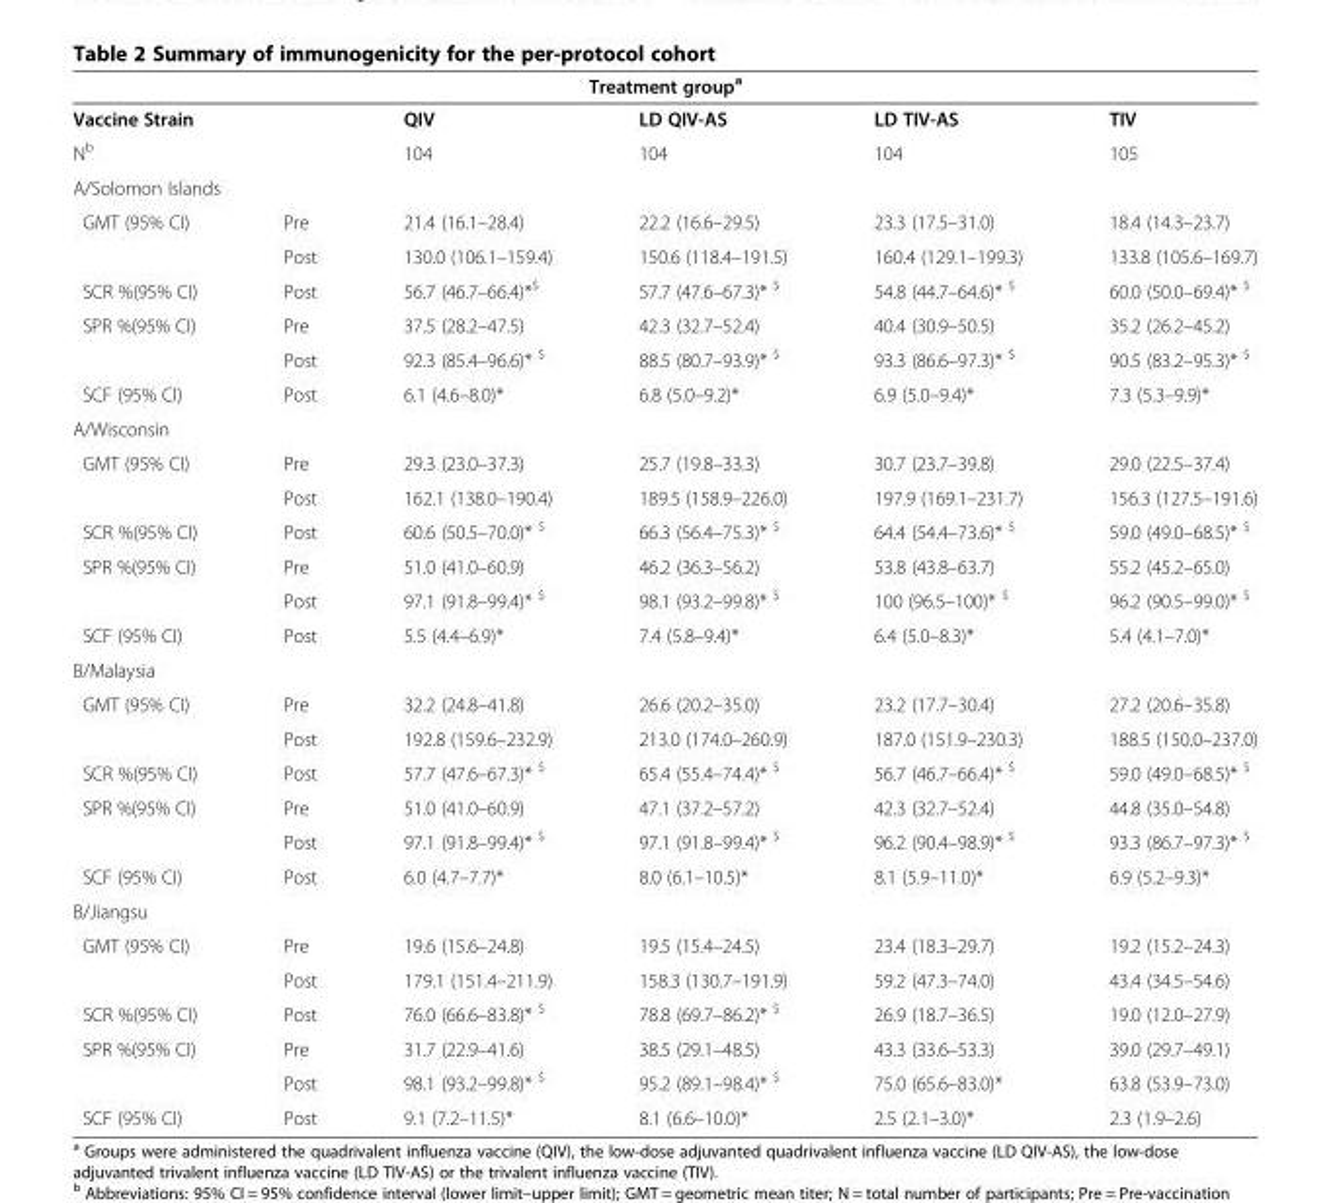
<table><thead><tr><td colspan="6">Treatment group<sup>a</sup></td></tr><tr><td>Vaccine Strain</td><td></td><td>QIV</td><td>LD QIV-AS</td><td>LD TIV-AS</td><td>TIV</td></tr></thead><tbody><tr><td>N<sup>b</sup></td><td></td><td>104</td><td>104</td><td>104</td><td>105</td></tr><tr><td colspan="6">A/Solomon Islands</td></tr><tr><td rowspan="2">GMT (95% CI)</td><td>Pre</td><td>21.4 (16.1–28.4)</td><td>22.2 (16.6–29.5)</td><td>23.3 (17.5–31.0)</td><td>18.4 (14.3–23.7)</td></tr><tr><td>Post</td><td>130.0 (106.1–159.4)</td><td>150.6 (118.4–191.5)</td><td>160.4 (129.1–199.3)</td><td>133.8 (105.6–169.7)</td></tr><tr><td>SCR %(95% CI)</td><td>Post</td><td>56.7 (46.7–66.4)*<sup>$</sup></td><td>57.7 (47.6–67.3)* <sup>$</sup></td><td>54.8 (44.7–64.6)* <sup>$</sup></td><td>60.0 (50.0–69.4)* <sup>$</sup></td></tr><tr><td rowspan="2">SPR %(95% CI)</td><td>Pre</td><td>37.5 (28.2–47.5)</td><td>42.3 (32.7–52.4)</td><td>40.4 (30.9–50.5)</td><td>35.2 (26.2–45.2)</td></tr><tr><td>Post</td><td>92.3 (85.4–96.6)* <sup>$</sup></td><td>88.5 (80.7–93.9)* <sup>$</sup></td><td>93.3 (86.6–97.3)* <sup>$</sup></td><td>90.5 (83.2–95.3)* <sup>$</sup></td></tr><tr><td>SCF (95% CI)</td><td>Post</td><td>6.1 (4.6–8.0)*</td><td>6.8 (5.0–9.2)*</td><td>6.9 (5.0–9.4)*</td><td>7.3 (5.3–9.9)*</td></tr><tr><td colspan="6">A/Wisconsin</td></tr><tr><td rowspan="2">GMT (95% CI)</td><td>Pre</td><td>29.3 (23.0–37.3)</td><td>25.7 (19.8–33.3)</td><td>30.7 (23.7–39.8)</td><td>29.0 (22.5–37.4)</td></tr><tr><td>Post</td><td>162.1 (138.0–190.4)</td><td>189.5 (158.9–226.0)</td><td>197.9 (169.1–231.7)</td><td>156.3 (127.5–191.6)</td></tr><tr><td>SCR %(95% CI)</td><td>Post</td><td>60.6 (50.5–70.0)* <sup>$</sup></td><td>66.3 (56.4–75.3)* <sup>$</sup></td><td>64.4 (54.4–73.6)* <sup>$</sup></td><td>59.0 (49.0–68.5)* <sup>$</sup></td></tr><tr><td rowspan="2">SPR %(95% CI)</td><td>Pre</td><td>51.0 (41.0–60.9)</td><td>46.2 (36.3–56.2)</td><td>53.8 (43.8–63.7)</td><td>55.2 (45.2–65.0)</td></tr><tr><td>Post</td><td>97.1 (91.8–99.4)* <sup>$</sup></td><td>98.1 (93.2–99.8)* <sup>$</sup></td><td>100 (96.5–100)* <sup>$</sup></td><td>96.2 (90.5–99.0)* <sup>$</sup></td></tr><tr><td>SCF (95% CI)</td><td>Post</td><td>5.5 (4.4–6.9)*</td><td>7.4 (5.8–9.4)*</td><td>6.4 (5.0–8.3)*</td><td>5.4 (4.1–7.0)*</td></tr><tr><td colspan="6">B/Malaysia</td></tr><tr><td rowspan="2">GMT (95% CI)</td><td>Pre</td><td>32.2 (24.8–41.8)</td><td>26.6 (20.2–35.0)</td><td>23.2 (17.7–30.4)</td><td>27.2 (20.6–35.8)</td></tr><tr><td>Post</td><td>192.8 (159.6–232.9)</td><td>213.0 (174.0–260.9)</td><td>187.0 (151.9–230.3)</td><td>188.5 (150.0–237.0)</td></tr><tr><td>SCR %(95% CI)</td><td>Post</td><td>57.7 (47.6–67.3)* <sup>$</sup></td><td>65.4 (55.4–74.4)* <sup>$</sup></td><td>56.7 (46.7–66.4)* <sup>$</sup></td><td>59.0 (49.0–68.5)* <sup>$</sup></td></tr><tr><td rowspan="2">SPR %(95% CI)</td><td>Pre</td><td>51.0 (41.0–60.9)</td><td>47.1 (37.2–57.2)</td><td>42.3 (32.7–52.4)</td><td>44.8 (35.0–54.8)</td></tr><tr><td>Post</td><td>97.1 (91.8–99.4)* <sup>$</sup></td><td>97.1 (91.8–99.4)* <sup>$</sup></td><td>96.2 (90.4–98.9)* <sup>$</sup></td><td>93.3 (86.7–97.3)* <sup>$</sup></td></tr><tr><td>SCF (95% CI)</td><td>Post</td><td>6.0 (4.7–7.7)*</td><td>8.0 (6.1–10.5)*</td><td>8.1 (5.9–11.0)*</td><td>6.9 (5.2–9.3)*</td></tr><tr><td colspan="6">B/Jiangsu</td></tr><tr><td rowspan="2">GMT (95% CI)</td><td>Pre</td><td>19.6 (15.6–24.8)</td><td>19.5 (15.4–24.5)</td><td>23.4 (18.3–29.7)</td><td>19.2 (15.2–24.3)</td></tr><tr><td>Post</td><td>179.1 (151.4–211.9)</td><td>158.3 (130.7–191.9)</td><td>59.2 (47.3–74.0)</td><td>43.4 (34.5–54.6)</td></tr><tr><td>SCR %(95% CI)</td><td>Post</td><td>76.0 (66.6–83.8)* <sup>$</sup></td><td>78.8 (69.7–86.2)* <sup>$</sup></td><td>26.9 (18.7–36.5)</td><td>19.0 (12.0–27.9)</td></tr><tr><td rowspan="2">SPR %(95% CI)</td><td>Pre</td><td>31.7 (22.9–41.6)</td><td>38.5 (29.1–48.5)</td><td>43.3 (33.6–53.3)</td><td>39.0 (29.7–49.1)</td></tr><tr><td>Post</td><td>98.1 (93.2–99.8)* <sup>$</sup></td><td>95.2 (89.1–98.4)* <sup>$</sup></td><td>75.0 (65.6–83.0)*</td><td>63.8 (53.9–73.0)</td></tr><tr><td>SCF (95% CI)</td><td>Post</td><td>9.1 (7.2–11.5)*</td><td>8.1 (6.6–10.0)*</td><td>2.5 (2.1–3.0)*</td><td>2.3 (1.9–2.6)</td></tr></tbody></table>